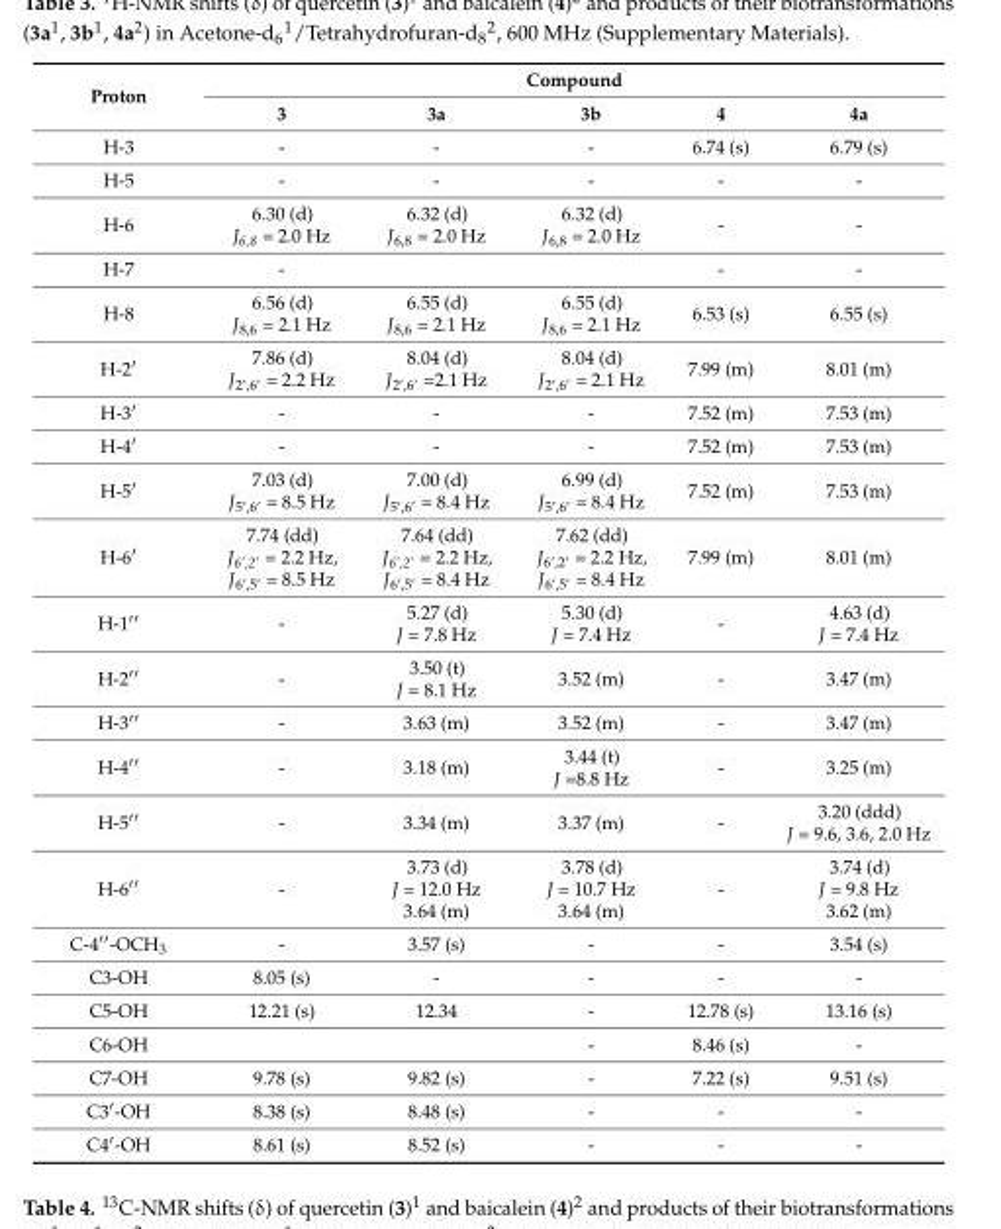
<table><thead><tr><td rowspan="2">Proton</td><td colspan="5">Compound</td></tr><tr><td>3</td><td>3a</td><td>3b</td><td>4</td><td>4a</td></tr></thead><tbody><tr><td>H-3</td><td>-</td><td>-</td><td>-</td><td>6.74 (s)</td><td>6.79 (s)</td></tr><tr><td>H-5</td><td>-</td><td>-</td><td>-</td><td>-</td><td>-</td></tr><tr><td>H-6</td><td>6.30 (d) J6,8 = 2.0 Hz</td><td>6.32 (d) J6,8 = 2.0 Hz</td><td>6.32 (d) J6,8 = 2.0 Hz</td><td>-</td><td>-</td></tr><tr><td>H-7</td><td>-</td><td></td><td></td><td>-</td><td>-</td></tr><tr><td>H-8</td><td>6.56 (d) J8,6 = 2.1 Hz</td><td>6.55 (d) J8,6 = 2.1 Hz</td><td>6.55 (d) J8,6 = 2.1 Hz</td><td>6.53 (s)</td><td>6.55 (s)</td></tr><tr><td>H-2′</td><td>7.86 (d) J2’,6’ = 2.2 Hz</td><td>8.04 (d) J2’,6’ =2.1 Hz</td><td>8.04 (d) J2’,6’ = 2.1 Hz</td><td>7.99 (m)</td><td>8.01 (m)</td></tr><tr><td>H-3′</td><td>-</td><td>-</td><td>-</td><td>7.52 (m)</td><td>7.53 (m)</td></tr><tr><td>H-4′</td><td>-</td><td>-</td><td>-</td><td>7.52 (m)</td><td>7.53 (m)</td></tr><tr><td>H-5′</td><td>7.03 (d) J5’,6’ = 8.5 Hz</td><td>7.00 (d) J5’,6’ = 8.4 Hz</td><td>6.99 (d) J5’,6’ = 8.4 Hz</td><td>7.52 (m)</td><td>7.53 (m)</td></tr><tr><td>H-6′</td><td>7.74 (dd) J6’,2’ = 2.2 Hz, J6’,5’ = 8.5 Hz</td><td>7.64 (dd) J6’,2’ = 2.2 Hz, J6’,5’ = 8.4 Hz</td><td>7.62 (dd) J6’,2’ = 2.2 Hz, J6’,5’ = 8.4 Hz</td><td>7.99 (m)</td><td>8.01 (m)</td></tr><tr><td>H-1′′</td><td>-</td><td>5.27 (d) J = 7.8 Hz</td><td>5.30 (d) J = 7.4 Hz</td><td>-</td><td>4.63 (d) J = 7.4 Hz</td></tr><tr><td>H-2′′</td><td>-</td><td>3.50 (t) J = 8.1 Hz</td><td>3.52 (m)</td><td>-</td><td>3.47 (m)</td></tr><tr><td>H-3′′</td><td>-</td><td>3.63 (m)</td><td>3.52 (m)</td><td>-</td><td>3.47 (m)</td></tr><tr><td>H-4′′</td><td>-</td><td>3.18 (m)</td><td>3.44 (t) J =8.8 Hz</td><td>-</td><td>3.25 (m)</td></tr><tr><td>H-5′′</td><td>-</td><td>3.34 (m)</td><td>3.37 (m)</td><td>-</td><td>3.20 (ddd) J = 9.6, 3.6, 2.0 Hz</td></tr><tr><td>H-6′′</td><td>-</td><td>3.73 (d) J = 12.0 Hz 3.64 (m)</td><td>3.78 (d) J = 10.7 Hz 3.64 (m)</td><td>-</td><td>3.74 (d) J = 9.8 Hz 3.62 (m)</td></tr><tr><td>C-4′′-OCH3</td><td>-</td><td>3.57 (s)</td><td>-</td><td>-</td><td>3.54 (s)</td></tr><tr><td>C3-OH</td><td>8.05 (s)</td><td>-</td><td>-</td><td>-</td><td>-</td></tr><tr><td>C5-OH</td><td>12.21 (s)</td><td>12.34</td><td>-</td><td>12.78 (s)</td><td>13.16 (s)</td></tr><tr><td>C6-OH</td><td></td><td></td><td>-</td><td>8.46 (s)</td><td>-</td></tr><tr><td>C7-OH</td><td>9.78 (s)</td><td>9.82 (s)</td><td>-</td><td>7.22 (s)</td><td>9.51 (s)</td></tr><tr><td>C3′-OH</td><td>8.38 (s)</td><td>8.48 (s)</td><td>-</td><td>-</td><td>-</td></tr><tr><td>C4′-OH</td><td>8.61 (s)</td><td>8.52 (s)</td><td>-</td><td>-</td><td>-</td></tr></tbody></table>